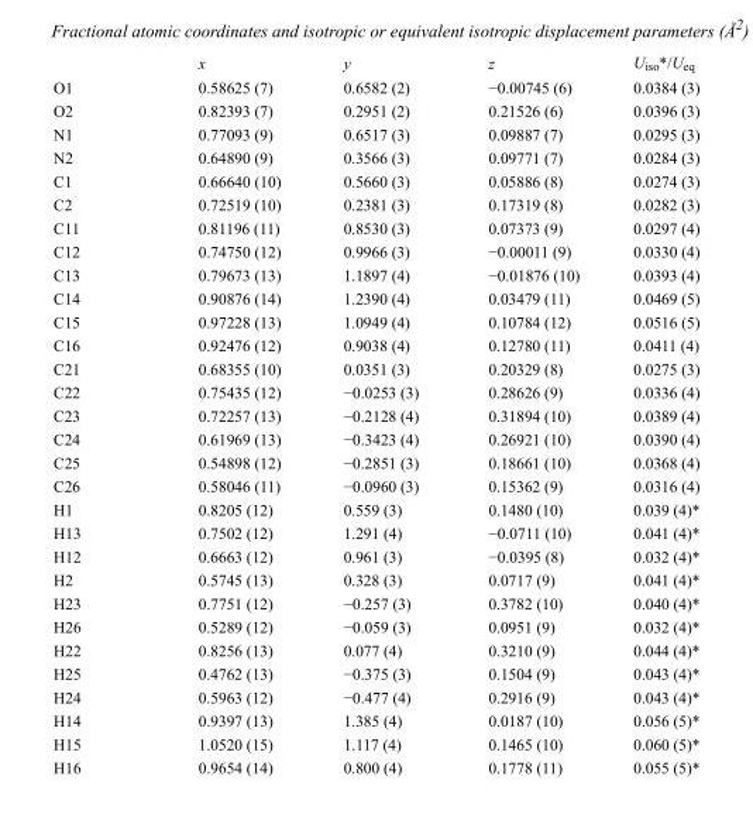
<table><thead><tr><td></td><td>x</td><td>y</td><td>z</td><td>U<sub>iso</sub>*/U<sub>eq</sub></td></tr></thead><tbody><tr><td>O1</td><td>0.58625 (7)</td><td>0.6582 (2)</td><td>−0.00745 (6)</td><td>0.0384 (3)</td></tr><tr><td>O2</td><td>0.82393 (7)</td><td>0.2951 (2)</td><td>0.21526 (6)</td><td>0.0396 (3)</td></tr><tr><td>N1</td><td>0.77093 (9)</td><td>0.6517 (3)</td><td>0.09887 (7)</td><td>0.0295 (3)</td></tr><tr><td>N2</td><td>0.64890 (9)</td><td>0.3566 (3)</td><td>0.09771 (7)</td><td>0.0284 (3)</td></tr><tr><td>C1</td><td>0.66640 (10)</td><td>0.5660 (3)</td><td>0.05886 (8)</td><td>0.0274 (3)</td></tr><tr><td>C2</td><td>0.72519 (10)</td><td>0.2381 (3)</td><td>0.17319 (8)</td><td>0.0282 (3)</td></tr><tr><td>C11</td><td>0.81196 (11)</td><td>0.8530 (3)</td><td>0.07373 (9)</td><td>0.0297 (4)</td></tr><tr><td>C12</td><td>0.74750 (12)</td><td>0.9966 (3)</td><td>−0.00011 (9)</td><td>0.0330 (4)</td></tr><tr><td>C13</td><td>0.79673 (13)</td><td>1.1897 (4)</td><td>−0.01876 (10)</td><td>0.0393 (4)</td></tr><tr><td>C14</td><td>0.90876 (14)</td><td>1.2390 (4)</td><td>0.03479 (11)</td><td>0.0469 (5)</td></tr><tr><td>C15</td><td>0.97228 (13)</td><td>1.0949 (4)</td><td>0.10784 (12)</td><td>0.0516 (5)</td></tr><tr><td>C16</td><td>0.92476 (12)</td><td>0.9038 (4)</td><td>0.12780 (11)</td><td>0.0411 (4)</td></tr><tr><td>C21</td><td>0.68355 (10)</td><td>0.0351 (3)</td><td>0.20329 (8)</td><td>0.0275 (3)</td></tr><tr><td>C22</td><td>0.75435 (12)</td><td>−0.0253 (3)</td><td>0.28626 (9)</td><td>0.0336 (4)</td></tr><tr><td>C23</td><td>0.72257 (13)</td><td>−0.2128 (4)</td><td>0.31894 (10)</td><td>0.0389 (4)</td></tr><tr><td>C24</td><td>0.61969 (13)</td><td>−0.3423 (4)</td><td>0.26921 (10)</td><td>0.0390 (4)</td></tr><tr><td>C25</td><td>0.54898 (12)</td><td>−0.2851 (3)</td><td>0.18661 (10)</td><td>0.0368 (4)</td></tr><tr><td>C26</td><td>0.58046 (11)</td><td>−0.0960 (3)</td><td>0.15362 (9)</td><td>0.0316 (4)</td></tr><tr><td>H1</td><td>0.8205 (12)</td><td>0.559 (3)</td><td>0.1480 (10)</td><td>0.039 (4)*</td></tr><tr><td>H13</td><td>0.7502 (12)</td><td>1.291 (4)</td><td>−0.0711 (10)</td><td>0.041 (4)*</td></tr><tr><td>H12</td><td>0.6663 (12)</td><td>0.961 (3)</td><td>−0.0395 (8)</td><td>0.032 (4)*</td></tr><tr><td>H2</td><td>0.5745 (13)</td><td>0.328 (3)</td><td>0.0717 (9)</td><td>0.041 (4)*</td></tr><tr><td>H23</td><td>0.7751 (12)</td><td>−0.257 (3)</td><td>0.3782 (10)</td><td>0.040 (4)*</td></tr><tr><td>H26</td><td>0.5289 (12)</td><td>−0.059 (3)</td><td>0.0951 (9)</td><td>0.032 (4)*</td></tr><tr><td>H22</td><td>0.8256 (13)</td><td>0.077 (4)</td><td>0.3210 (9)</td><td>0.044 (4)*</td></tr><tr><td>H25</td><td>0.4762 (13)</td><td>−0.375 (3)</td><td>0.1504 (9)</td><td>0.043 (4)*</td></tr><tr><td>H24</td><td>0.5963 (12)</td><td>−0.477 (4)</td><td>0.2916 (9)</td><td>0.043 (4)*</td></tr><tr><td>H14</td><td>0.9397 (13)</td><td>1.385 (4)</td><td>0.0187 (10)</td><td>0.056 (5)*</td></tr><tr><td>H15</td><td>1.0520 (15)</td><td>1.117 (4)</td><td>0.1465 (10)</td><td>0.060 (5)*</td></tr><tr><td>H16</td><td>0.9654 (14)</td><td>0.800 (4)</td><td>0.1778 (11)</td><td>0.055 (5)*</td></tr></tbody></table>